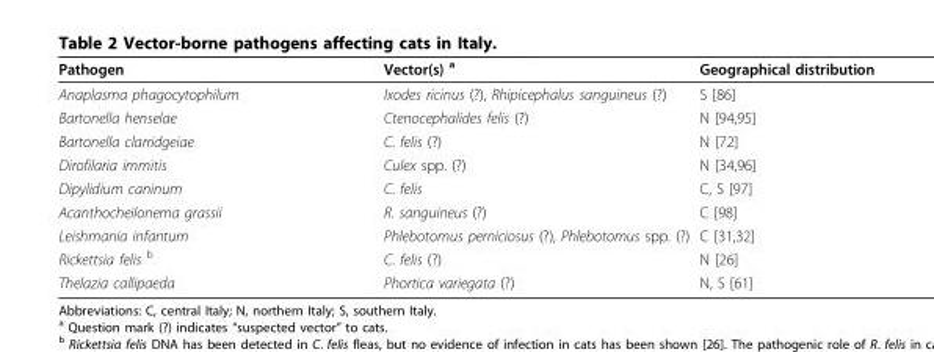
<table><thead><tr><td>Pathogen</td><td>Vector(s) <sup>a</sup></td><td>Geographical distribution</td></tr></thead><tbody><tr><td>Anaplasma phagocytophilum</td><td>Ixodes ricinus (?), Rhipicephalus sanguineus (?)</td><td>S [86]</td></tr><tr><td>Bartonella henselae</td><td>Ctenocephalides felis (?)</td><td>N [94,95]</td></tr><tr><td>Bartonella clarridgeiae</td><td>C. felis (?)</td><td>N [72]</td></tr><tr><td>Dirofilaria immitis</td><td>Culex spp. (?)</td><td>N [34,96]</td></tr><tr><td>Dipylidium caninum</td><td>C. felis</td><td>C, S [97]</td></tr><tr><td>Acanthocheilonema grassii</td><td>R. sanguineus (?)</td><td>C [98]</td></tr><tr><td>Leishmania infantum</td><td>Phlebotomus perniciosus (?), Phlebotomus spp. (?)</td><td>C [31,32]</td></tr><tr><td>Rickettsia felis <sup>b</sup></td><td>C. felis (?)</td><td>N [26]</td></tr><tr><td>Thelazia callipaeda</td><td>Phortica variegata (?)</td><td>N, S [61]</td></tr></tbody></table>